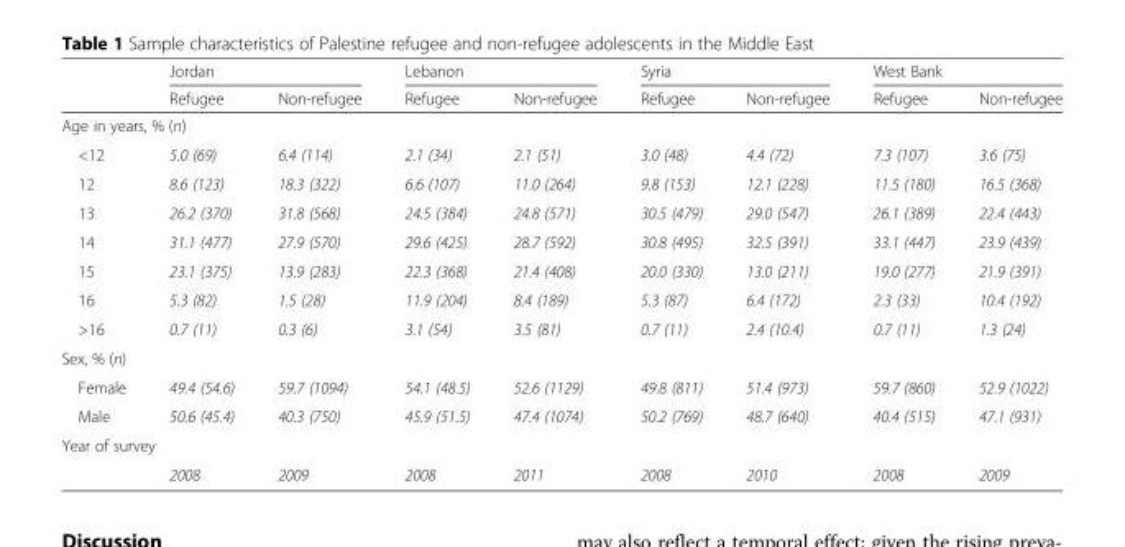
<table><thead><tr><td rowspan="2"></td><td colspan="2">Jordan</td><td colspan="2">Lebanon</td><td colspan="2">Syria</td><td colspan="2">West Bank</td></tr><tr><td>Refugee</td><td>Non-refugee</td><td>Refugee</td><td>Non-refugee</td><td>Refugee</td><td>Non-refugee</td><td>Refugee</td><td>Non-refugee</td></tr></thead><tbody><tr><td colspan="9">Age in years, % (n)</td></tr><tr><td>&lt;12</td><td>5.0 (69)</td><td>6.4 (114)</td><td>2.1 (34)</td><td>2.1 (51)</td><td>3.0 (48)</td><td>4.4 (72)</td><td>7.3 (107)</td><td>3.6 (75)</td></tr><tr><td>12</td><td>8.6 (123)</td><td>18.3 (322)</td><td>6.6 (107)</td><td>11.0 (264)</td><td>9.8 (153)</td><td>12.1 (228)</td><td>11.5 (180)</td><td>16.5 (368)</td></tr><tr><td>13</td><td>26.2 (370)</td><td>31.8 (568)</td><td>24.5 (384)</td><td>24.8 (571)</td><td>30.5 (479)</td><td>29.0 (547)</td><td>26.1 (389)</td><td>22.4 (443)</td></tr><tr><td>14</td><td>31.1 (477)</td><td>27.9 (570)</td><td>29.6 (425)</td><td>28.7 (592)</td><td>30.8 (495)</td><td>32.5 (391)</td><td>33.1 (447)</td><td>23.9 (439)</td></tr><tr><td>15</td><td>23.1 (375)</td><td>13.9 (283)</td><td>22.3 (368)</td><td>21.4 (408)</td><td>20.0 (330)</td><td>13.0 (211)</td><td>19.0 (277)</td><td>21.9 (391)</td></tr><tr><td>16</td><td>5.3 (82)</td><td>1.5 (28)</td><td>11.9 (204)</td><td>8.4 (189)</td><td>5.3 (87)</td><td>6.4 (172)</td><td>2.3 (33)</td><td>10.4 (192)</td></tr><tr><td>&gt;16</td><td>0.7 (11)</td><td>0.3 (6)</td><td>3.1 (54)</td><td>3.5 (81)</td><td>0.7 (11)</td><td>2.4 (10.4)</td><td>0.7 (11)</td><td>1.3 (24)</td></tr><tr><td colspan="9">Sex, % (n)</td></tr><tr><td>Female</td><td>49.4 (54.6)</td><td>59.7 (1094)</td><td>54.1 (48.5)</td><td>52.6 (1129)</td><td>49.8 (811)</td><td>51.4 (973)</td><td>59.7 (860)</td><td>52.9 (1022)</td></tr><tr><td>Male</td><td>50.6 (45.4)</td><td>40.3 (750)</td><td>45.9 (51.5)</td><td>47.4 (1074)</td><td>50.2 (769)</td><td>48.7 (640)</td><td>40.4 (515)</td><td>47.1 (931)</td></tr><tr><td colspan="9">Year of survey</td></tr><tr><td></td><td>2008</td><td>2009</td><td>2008</td><td>2011</td><td>2008</td><td>2010</td><td>2008</td><td>2009</td></tr></tbody></table>